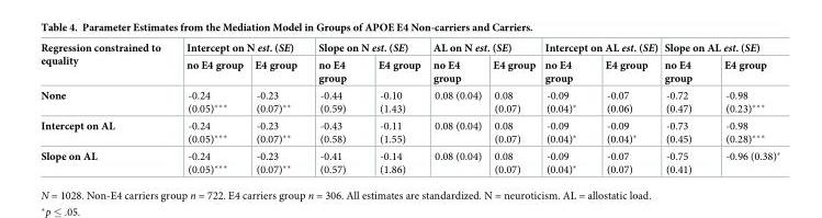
<table><thead><tr><td rowspan="2">Regression constrained to equality</td><td colspan="2">Intercept on N est. (SE)</td><td colspan="2">Slope on N est. (SE)</td><td colspan="2">AL on N est. (SE)</td><td colspan="2">Intercept on AL est. (SE)</td><td colspan="2">Slope on AL est. (SE)</td></tr><tr><td>no E4 group</td><td>E4 group</td><td>no E4 group</td><td>E4 group</td><td>no E4 group</td><td>E4 group</td><td>no E4 group</td><td>E4 group</td><td>no E4 group</td><td>E4 group</td></tr></thead><tbody><tr><td>None</td><td>-0.24 (0.05)***</td><td>-0.23 (0.07)**</td><td>-0.44 (0.59)</td><td>-0.10 (1.43)</td><td>0.08 (0.04)</td><td>0.08 (0.07)</td><td>-0.09 (0.04)*</td><td>-0.07 (0.06)</td><td>-0.72 (0.47)</td><td>-0.98 (0.23)***</td></tr><tr><td>Intercept on AL</td><td>-0.24 (0.05)***</td><td>-0.23 (0.07)**</td><td>-0.43 (0.58)</td><td>-0.11 (1.55)</td><td>0.08 (0.04)</td><td>0.08 (0.07)</td><td>-0.09 (0.04)*</td><td>-0.09 (0.04)*</td><td>-0.73 (0.45)</td><td>-0.98 (0.28)***</td></tr><tr><td>Slope on AL</td><td>-0.24 (0.05)***</td><td>-0.23 (0.07)**</td><td>-0.41 (0.57)</td><td>-0.14 (1.86)</td><td>0.08 (0.04)</td><td>0.08 (0.07)</td><td>-0.09 (0.04)*</td><td>-0.07 (0.07)</td><td>-0.75 (0.41)</td><td>-0.96 (0.38)*</td></tr></tbody></table>